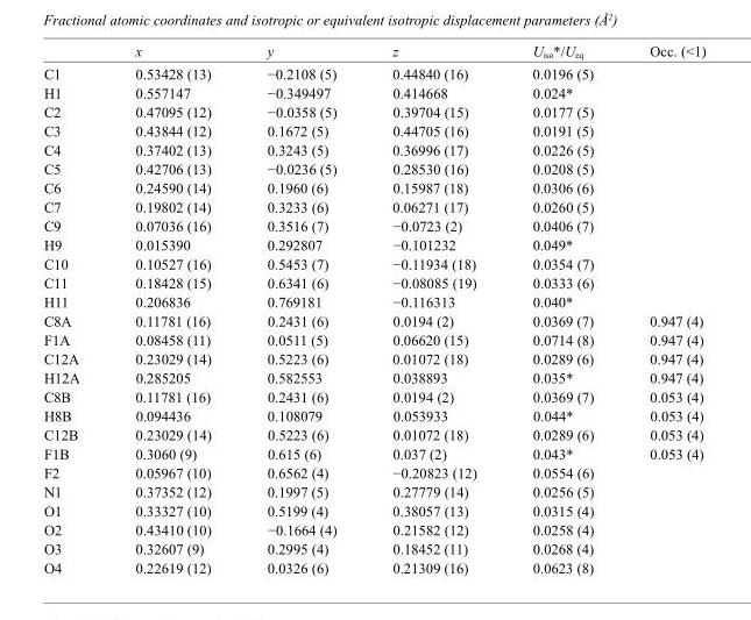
<table><thead><tr><td></td><td>x</td><td>y</td><td>z</td><td>U<sub>iso</sub>*/U<sub>eq</sub></td><td>Occ. (&lt;1)</td></tr></thead><tbody><tr><td>C1</td><td>0.53428 (13)</td><td>−0.2108 (5)</td><td>0.44840 (16)</td><td>0.0196 (5)</td><td></td></tr><tr><td>H1</td><td>0.557147</td><td>−0.349497</td><td>0.414668</td><td>0.024*</td><td></td></tr><tr><td>C2</td><td>0.47095 (12)</td><td>−0.0358 (5)</td><td>0.39704 (15)</td><td>0.0177 (5)</td><td></td></tr><tr><td>C3</td><td>0.43844 (12)</td><td>0.1672 (5)</td><td>0.44705 (16)</td><td>0.0191 (5)</td><td></td></tr><tr><td>C4</td><td>0.37402 (13)</td><td>0.3243 (5)</td><td>0.36996 (17)</td><td>0.0226 (5)</td><td></td></tr><tr><td>C5</td><td>0.42706 (13)</td><td>−0.0236 (5)</td><td>0.28530 (16)</td><td>0.0208 (5)</td><td></td></tr><tr><td>C6</td><td>0.24590 (14)</td><td>0.1960 (6)</td><td>0.15987 (18)</td><td>0.0306 (6)</td><td></td></tr><tr><td>C7</td><td>0.19802 (14)</td><td>0.3233 (6)</td><td>0.06271 (17)</td><td>0.0260 (5)</td><td></td></tr><tr><td>C9</td><td>0.07036 (16)</td><td>0.3516 (7)</td><td>−0.0723 (2)</td><td>0.0406 (7)</td><td></td></tr><tr><td>H9</td><td>0.015390</td><td>0.292807</td><td>−0.101232</td><td>0.049*</td><td></td></tr><tr><td>C10</td><td>0.10527 (16)</td><td>0.5453 (7)</td><td>−0.11934 (18)</td><td>0.0354 (7)</td><td></td></tr><tr><td>C11</td><td>0.18428 (15)</td><td>0.6341 (6)</td><td>−0.08085 (19)</td><td>0.0333 (6)</td><td></td></tr><tr><td>H11</td><td>0.206836</td><td>0.769181</td><td>−0.116313</td><td>0.040*</td><td></td></tr><tr><td>C8A</td><td>0.11781 (16)</td><td>0.2431 (6)</td><td>0.0194 (2)</td><td>0.0369 (7)</td><td>0.947 (4)</td></tr><tr><td>F1A</td><td>0.08458 (11)</td><td>0.0511 (5)</td><td>0.06620 (15)</td><td>0.0714 (8)</td><td>0.947 (4)</td></tr><tr><td>C12A</td><td>0.23029 (14)</td><td>0.5223 (6)</td><td>0.01072 (18)</td><td>0.0289 (6)</td><td>0.947 (4)</td></tr><tr><td>H12A</td><td>0.285205</td><td>0.582553</td><td>0.038893</td><td>0.035*</td><td>0.947 (4)</td></tr><tr><td>C8B</td><td>0.11781 (16)</td><td>0.2431 (6)</td><td>0.0194 (2)</td><td>0.0369 (7)</td><td>0.053 (4)</td></tr><tr><td>H8B</td><td>0.094436</td><td>0.108079</td><td>0.053933</td><td>0.044*</td><td>0.053 (4)</td></tr><tr><td>C12B</td><td>0.23029 (14)</td><td>0.5223 (6)</td><td>0.01072 (18)</td><td>0.0289 (6)</td><td>0.053 (4)</td></tr><tr><td>F1B</td><td>0.3060 (9)</td><td>0.615 (6)</td><td>0.037 (2)</td><td>0.043*</td><td>0.053 (4)</td></tr><tr><td>F2</td><td>0.05967 (10)</td><td>0.6562 (4)</td><td>−0.20823 (12)</td><td>0.0554 (6)</td><td></td></tr><tr><td>N1</td><td>0.37352 (12)</td><td>0.1997 (5)</td><td>0.27779 (14)</td><td>0.0256 (5)</td><td></td></tr><tr><td>O1</td><td>0.33327 (10)</td><td>0.5199 (4)</td><td>0.38057 (13)</td><td>0.0315 (4)</td><td></td></tr><tr><td>O2</td><td>0.43410 (10)</td><td>−0.1664 (4)</td><td>0.21582 (12)</td><td>0.0258 (4)</td><td></td></tr><tr><td>O3</td><td>0.32607 (9)</td><td>0.2995 (4)</td><td>0.18452 (11)</td><td>0.0268 (4)</td><td></td></tr><tr><td>O4</td><td>0.22619 (12)</td><td>0.0326 (6)</td><td>0.21309 (16)</td><td>0.0623 (8)</td><td></td></tr></tbody></table>